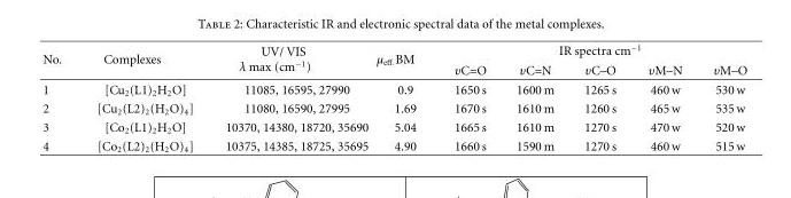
<table><thead><tr><td rowspan="2">No.</td><td rowspan="2">Complexes</td><td rowspan="2">UV/ VIS λ max (cm<sup>−1</sup>)</td><td rowspan="2">μ<sub>eff.</sub>BM</td><td colspan="5">IR spectra cm<sup>−1</sup></td></tr><tr><td>υC=O</td><td>υC=N</td><td>υC–O</td><td>υM–N</td><td>υM–O</td></tr></thead><tbody><tr><td>1</td><td>[Cu<sub>2</sub>(L1)<sub>2</sub>H<sub>2</sub>O]</td><td>11085, 16595, 27990</td><td>0.9</td><td>1650 s</td><td>1600 m</td><td>1265 s</td><td>460 w</td><td>530 w</td></tr><tr><td>2</td><td>[Cu<sub>2</sub>(L2)<sub>2</sub>(H<sub>2</sub>O)<sub>4</sub>]</td><td>11080, 16590, 27995</td><td>1.69</td><td>1670 s</td><td>1610 m</td><td>1260 s</td><td>465 w</td><td>535 w</td></tr><tr><td>3</td><td>[Co<sub>2</sub>(L1)<sub>2</sub>H<sub>2</sub>O]</td><td>10370, 14380, 18720, 35690</td><td>5.04</td><td>1665 s</td><td>1610 m</td><td>1270 s</td><td>470 w</td><td>520 w</td></tr><tr><td>4</td><td>[Co<sub>2</sub>(L2)<sub>2</sub>(H<sub>2</sub>O)<sub>4</sub>]</td><td>10375, 14385, 18725, 35695</td><td>4.90</td><td>1660 s</td><td>1590 m</td><td>1270 s</td><td>460 w</td><td>515 w</td></tr></tbody></table>